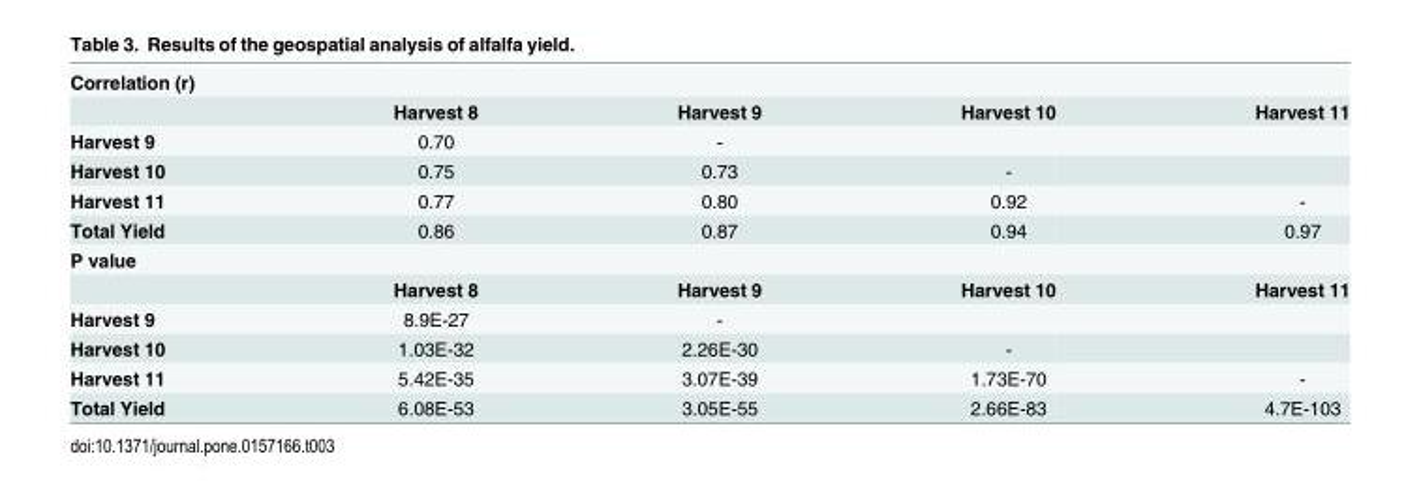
<table><tbody><tr><td colspan="5">Correlation (r)</td></tr><tr><td></td><td>Harvest 8</td><td>Harvest 9</td><td>Harvest 10</td><td>Harvest 11</td></tr><tr><td>Harvest 9</td><td>0.70</td><td>-</td><td></td><td></td></tr><tr><td>Harvest 10</td><td>0.75</td><td>0.73</td><td>-</td><td></td></tr><tr><td>Harvest 11</td><td>0.77</td><td>0.80</td><td>0.92</td><td>-</td></tr><tr><td>Total Yield</td><td>0.86</td><td>0.87</td><td>0.94</td><td>0.97</td></tr><tr><td colspan="5">P value</td></tr><tr><td></td><td>Harvest 8</td><td>Harvest 9</td><td>Harvest 10</td><td>Harvest 11</td></tr><tr><td>Harvest 9</td><td>8.9E-27</td><td>-</td><td></td><td></td></tr><tr><td>Harvest 10</td><td>1.03E-32</td><td>2.26E-30</td><td>-</td><td></td></tr><tr><td>Harvest 11</td><td>5.42E-35</td><td>3.07E-39</td><td>1.73E-70</td><td>-</td></tr><tr><td>Total Yield</td><td>6.08E-53</td><td>3.05E-55</td><td>2.66E-83</td><td>4.7E-103</td></tr></tbody></table>